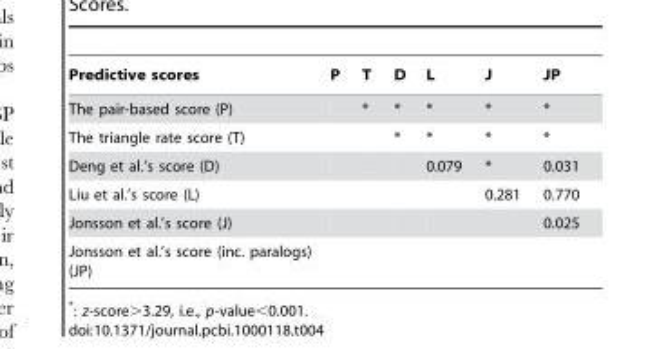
<table><thead><tr><td>Predictive scores</td><td>P</td><td>T</td><td>D</td><td>L</td><td>J</td><td>JP</td></tr></thead><tbody><tr><td>The pair-based score (P)</td><td></td><td>*</td><td>*</td><td>*</td><td>*</td><td>*</td></tr><tr><td>The triangle rate score (T)</td><td></td><td></td><td>*</td><td>*</td><td>*</td><td>*</td></tr><tr><td>Deng et al.’s score (D)</td><td></td><td></td><td></td><td>0.079</td><td>*</td><td>0.031</td></tr><tr><td>Liu et al.’s score (L)</td><td></td><td></td><td></td><td></td><td>0.281</td><td>0.770</td></tr><tr><td>Jonsson et al.’s score (J)</td><td></td><td></td><td></td><td></td><td></td><td>0.025</td></tr><tr><td>Jonsson et al.’s score (inc. paralogs) (JP)</td><td></td><td></td><td></td><td></td><td></td><td></td></tr></tbody></table>